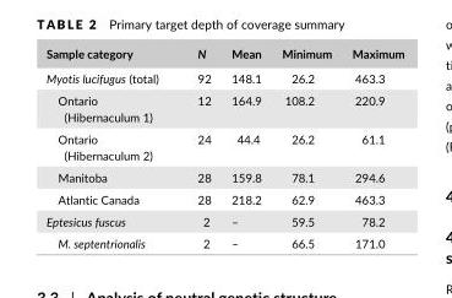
<table><thead><tr><td>Sample category</td><td>N</td><td>Mean</td><td>Minimum</td><td>Maximum</td></tr></thead><tbody><tr><td>Myotis lucifugus (total)</td><td>92</td><td>148.1</td><td>26.2</td><td>463.3</td></tr><tr><td>Ontario (Hibernaculum 1)</td><td>12</td><td>164.9</td><td>108.2</td><td>220.9</td></tr><tr><td>Ontario (Hibernaculum 2)</td><td>24</td><td>44.4</td><td>26.2</td><td>61.1</td></tr><tr><td>Manitoba</td><td>28</td><td>159.8</td><td>78.1</td><td>294.6</td></tr><tr><td>Atlantic Canada</td><td>28</td><td>218.2</td><td>62.9</td><td>463.3</td></tr><tr><td>Eptesicus fuscus</td><td>2</td><td>–</td><td>59.5</td><td>78.2</td></tr><tr><td>M. septentrionalis</td><td>2</td><td>–</td><td>66.5</td><td>171.0</td></tr></tbody></table>